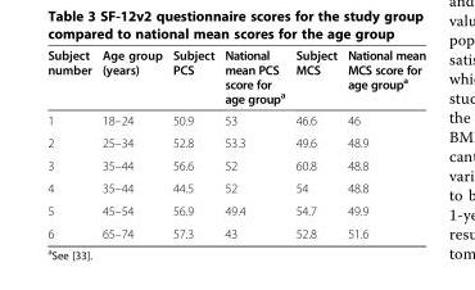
<table><thead><tr><td>Subject number</td><td>Age group (years)</td><td>Subject PCS</td><td>National mean PCS score for age group<sup>a</sup></td><td>Subject MCS</td><td>National mean MCS score for age group<sup>a</sup></td></tr></thead><tbody><tr><td>1</td><td>18–24</td><td>50.9</td><td>53</td><td>46.6</td><td>46</td></tr><tr><td>2</td><td>25–34</td><td>52.8</td><td>53.3</td><td>49.6</td><td>48.9</td></tr><tr><td>3</td><td>35–44</td><td>56.6</td><td>52</td><td>60.8</td><td>48.8</td></tr><tr><td>4</td><td>35–44</td><td>44.5</td><td>52</td><td>54</td><td>48.8</td></tr><tr><td>5</td><td>45–54</td><td>56.9</td><td>49.4</td><td>54.7</td><td>49.9</td></tr><tr><td>6</td><td>65–74</td><td>57.3</td><td>43</td><td>52.8</td><td>51.6</td></tr></tbody></table>